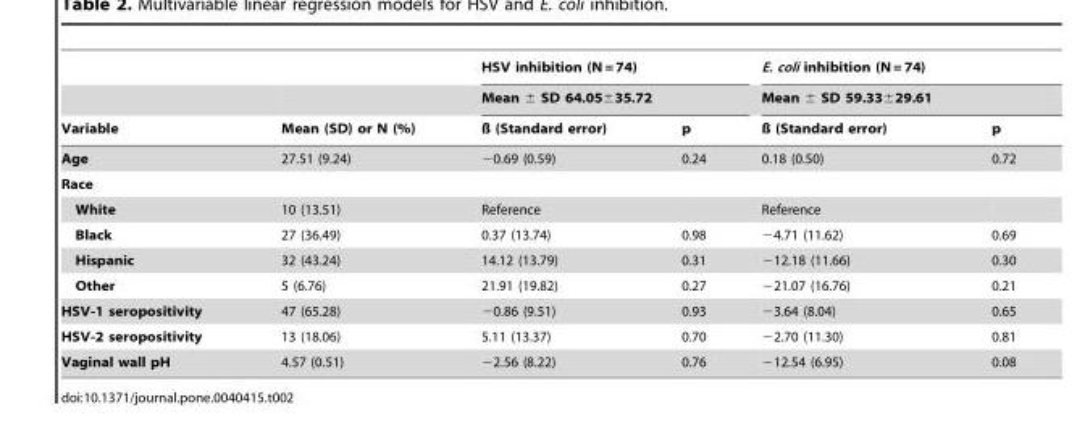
<table><thead><tr><td rowspan="3">Variable</td><td rowspan="3">Mean (SD) or N (%)</td><td rowspan="2" colspan="2">HSV inhibition (N = 74) Mean ± SD 64.05±35.72</td><td rowspan="2" colspan="2">E. coli inhibition (N = 74) Mean ± SD 59.33±29.61</td></tr><tr></tr><tr><td>ß (Standard error)</td><td>p</td><td>ß (Standard error)</td><td>p</td></tr></thead><tbody><tr><td>Age</td><td>27.51 (9.24)</td><td>−0.69 (0.59)</td><td>0.24</td><td>0.18 (0.50)</td><td>0.72</td></tr><tr><td colspan="6">Race</td></tr><tr><td>White</td><td>10 (13.51)</td><td>Reference</td><td></td><td>Reference</td><td></td></tr><tr><td>Black</td><td>27 (36.49)</td><td>0.37 (13.74)</td><td>0.98</td><td>−4.71 (11.62)</td><td>0.69</td></tr><tr><td>Hispanic</td><td>32 (43.24)</td><td>14.12 (13.79)</td><td>0.31</td><td>−12.18 (11.66)</td><td>0.30</td></tr><tr><td>Other</td><td>5 (6.76)</td><td>21.91 (19.82)</td><td>0.27</td><td>−21.07 (16.76)</td><td>0.21</td></tr><tr><td>HSV-1 seropositivity</td><td>47 (65.28)</td><td>−0.86 (9.51)</td><td>0.93</td><td>−3.64 (8.04)</td><td>0.65</td></tr><tr><td>HSV-2 seropositivity</td><td>13 (18.06)</td><td>5.11 (13.37)</td><td>0.70</td><td>−2.70 (11.30)</td><td>0.81</td></tr><tr><td>Vaginal wall pH</td><td>4.57 (0.51)</td><td>−2.56 (8.22)</td><td>0.76</td><td>−12.54 (6.95)</td><td>0.08</td></tr></tbody></table>